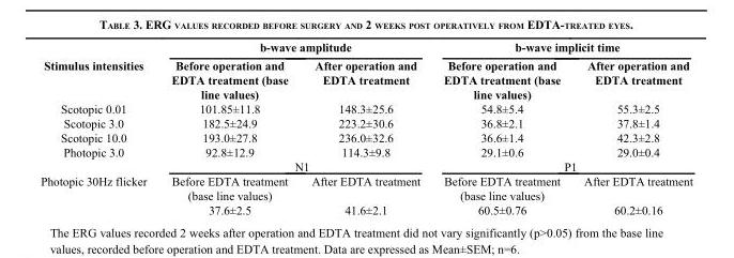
<table><thead><tr><td rowspan="2">Stimulus intensities</td><td colspan="2">b-wave amplitude</td><td colspan="2">b-wave implicit time</td></tr><tr><td>Before operation and EDTA treatment (base line values)</td><td>After operation and EDTA treatment</td><td>Before operation and EDTA treatment (base line values)</td><td>After operation and EDTA treatment</td></tr></thead><tbody><tr><td>Scotopic 0.01</td><td>101.85±11.8</td><td>148.3±25.6</td><td>54.8±5.4</td><td>55.3±2.5</td></tr><tr><td>Scotopic 3.0</td><td>182.5±24.9</td><td>223.2±30.6</td><td>36.8±2.1</td><td>37.8±1.4</td></tr><tr><td>Scotopic 10.0</td><td>193.0±27.8</td><td>236.0±32.6</td><td>36.6±1.4</td><td>42.3±2.8</td></tr><tr><td rowspan="2">Photopic 3.0</td><td>92.8±12.9</td><td>114.3±9.8</td><td>29.1±0.6</td><td>29.0±0.4</td></tr><tr><td colspan="2">N1</td><td colspan="2">P1</td></tr><tr><td rowspan="2">Photopic 30Hz flicker</td><td>Before EDTA treatment (base line values)</td><td>After EDTA treatment</td><td>Before EDTA treatment (base line values)</td><td>After EDTA treatment</td></tr><tr><td>37.6±2.5</td><td>41.6±2.1</td><td>60.5±0.76</td><td>60.2±0.16</td></tr></tbody></table>